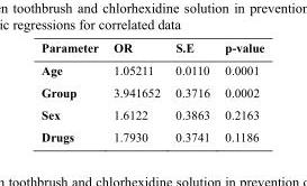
<table><thead><tr><td>Parameter</td><td>OR</td><td>S.E</td><td>p-value</td></tr></thead><tbody><tr><td>Age</td><td>1.05211</td><td>0.0110</td><td>0.0001</td></tr><tr><td>Group</td><td>3.941652</td><td>0.3716</td><td>0.0002</td></tr><tr><td>Sex</td><td>1.6122</td><td>0.3863</td><td>0.2163</td></tr><tr><td>Drugs</td><td>1.7930</td><td>0.3741</td><td>0.1186</td></tr></tbody></table>